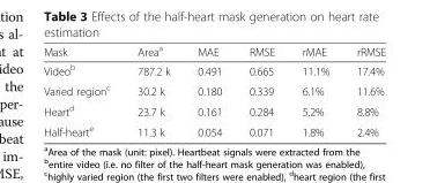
<table><thead><tr><td>Mask</td><td>Area<sup>a</sup></td><td>MAE</td><td>RMSE</td><td>rMAE</td><td>rRMSE</td></tr></thead><tbody><tr><td>Video<sup>b</sup></td><td>787.2 k</td><td>0.491</td><td>0.665</td><td>11.1%</td><td>17.4%</td></tr><tr><td>Varied region<sup>c</sup></td><td>30.2 k</td><td>0.180</td><td>0.339</td><td>6.1%</td><td>11.6%</td></tr><tr><td>Heart<sup>d</sup></td><td>23.7 k</td><td>0.161</td><td>0.284</td><td>5.2%</td><td>8.8%</td></tr><tr><td>Half-heart<sup>e</sup></td><td>11.3 k</td><td>0.054</td><td>0.071</td><td>1.8%</td><td>2.4%</td></tr></tbody></table>